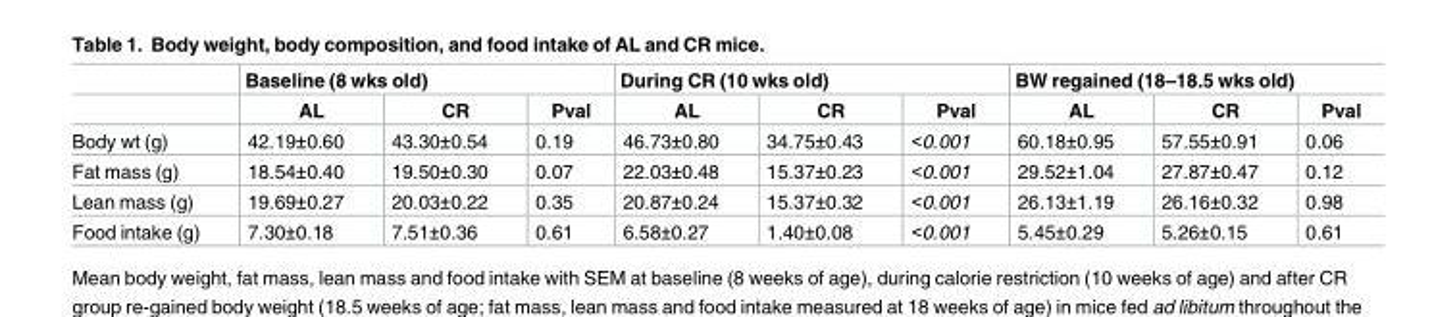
<table><thead><tr><td rowspan="2"></td><td colspan="3">Baseline (8 wks old)</td><td colspan="3">During CR (10 wks old)</td><td colspan="3">BW regained (18–18.5 wks old)</td></tr><tr><td>AL</td><td>CR</td><td>Pval</td><td>AL</td><td>CR</td><td>Pval</td><td>AL</td><td>CR</td><td>Pval</td></tr></thead><tbody><tr><td>Body wt (g)</td><td>42.19±0.60</td><td>43.30±0.54</td><td>0.19</td><td>46.73±0.80</td><td>34.75±0.43</td><td>&lt;0.001</td><td>60.18±0.95</td><td>57.55±0.91</td><td>0.06</td></tr><tr><td>Fat mass (g)</td><td>18.54±0.40</td><td>19.50±0.30</td><td>0.07</td><td>22.03±0.48</td><td>15.37±0.23</td><td>&lt;0.001</td><td>29.52±1.04</td><td>27.87±0.47</td><td>0.12</td></tr><tr><td>Lean mass (g)</td><td>19.69±0.27</td><td>20.03±0.22</td><td>0.35</td><td>20.87±0.24</td><td>15.37±0.32</td><td>&lt;0.001</td><td>26.13±1.19</td><td>26.16±0.32</td><td>0.98</td></tr><tr><td>Food intake (g)</td><td>7.30±0.18</td><td>7.51±0.36</td><td>0.61</td><td>6.58±0.27</td><td>1.40±0.08</td><td>&lt;0.001</td><td>5.45±0.29</td><td>5.26±0.15</td><td>0.61</td></tr></tbody></table>